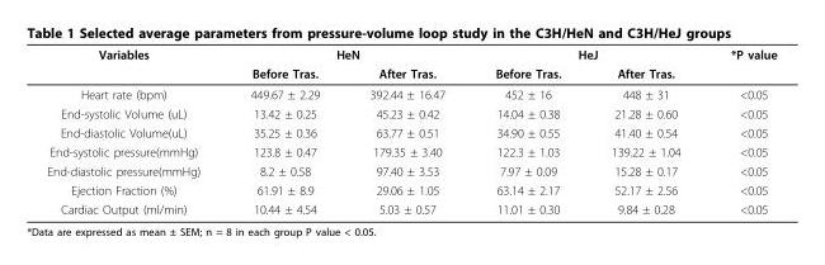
<table><thead><tr><td rowspan="2">Variables</td><td colspan="2">HeN</td><td colspan="2">HeJ</td><td rowspan="2">*P value</td></tr><tr><td>Before Tras.</td><td>After Tras.</td><td>Before Tras.</td><td>After Tras.</td></tr></thead><tbody><tr><td>Heart rate (bpm)</td><td>449.67 ± 2.29</td><td>392.44 ± 16.47</td><td>452 ± 16</td><td>448 ± 31</td><td>&lt;0.05</td></tr><tr><td>End-systolic Volume (uL)</td><td>13.42 ± 0.25</td><td>45.23 ± 0.42</td><td>14.04 ± 0.38</td><td>21.28 ± 0.60</td><td>&lt;0.05</td></tr><tr><td>End-diastolic Volume(uL)</td><td>35.25 ± 0.36</td><td>63.77 ± 0.51</td><td>34.90 ± 0.55</td><td>41.40 ± 0.54</td><td>&lt;0.05</td></tr><tr><td>End-systolic pressure(mmHg)</td><td>123.8 ± 0.47</td><td>179.35 ± 3.40</td><td>122.3 ± 1.03</td><td>139.22 ± 1.04</td><td>&lt;0.05</td></tr><tr><td>End-diastolic pressure(mmHg)</td><td>8.2 ± 0.58</td><td>97.40 ± 3.53</td><td>7.97 ± 0.09</td><td>15.28 ± 0.17</td><td>&lt;0.05</td></tr><tr><td>Ejection Fraction (%)</td><td>61.91 ± 8.9</td><td>29.06 ± 1.05</td><td>63.14 ± 2.17</td><td>52.17 ± 2.56</td><td>&lt;0.05</td></tr><tr><td>Cardiac Output (ml/min)</td><td>10.44 ± 4.54</td><td>5.03 ± 0.57</td><td>11.01 ± 0.30</td><td>9.84 ± 0.28</td><td>&lt;0.05</td></tr></tbody></table>